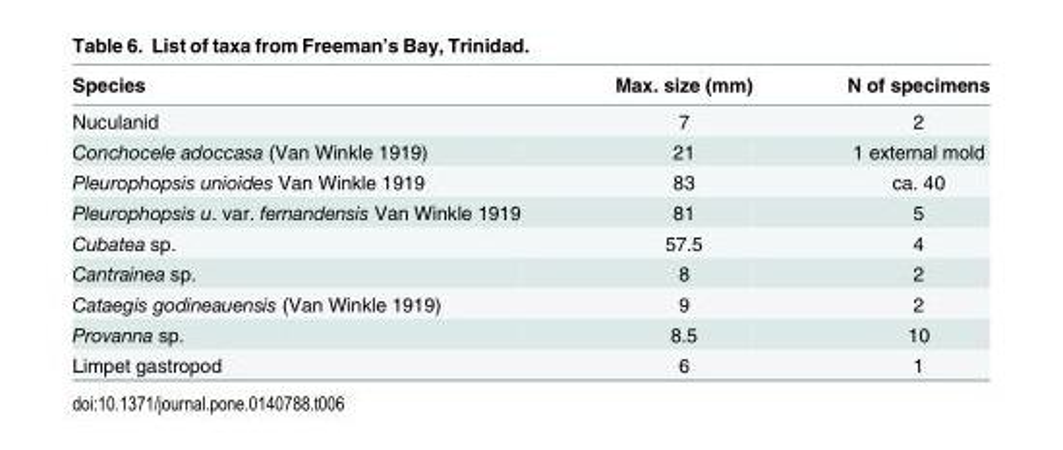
<table><thead><tr><td>Species</td><td>Max. size (mm)</td><td>N of specimens</td></tr></thead><tbody><tr><td>Nuculanid</td><td>7</td><td>2</td></tr><tr><td>Conchocele adoccasa (Van Winkle 1919)</td><td>21</td><td>1 external mold</td></tr><tr><td>Pleurophopsis unioides Van Winkle 1919</td><td>83</td><td>ca. 40</td></tr><tr><td>Pleurophopsis u. var. fernandensis Van Winkle 1919</td><td>81</td><td>5</td></tr><tr><td>Cubatea sp.</td><td>57.5</td><td>4</td></tr><tr><td>Cantrainea sp.</td><td>8</td><td>2</td></tr><tr><td>Cataegis godineauensis (Van Winkle 1919)</td><td>9</td><td>2</td></tr><tr><td>Provanna sp.</td><td>8.5</td><td>10</td></tr><tr><td>Limpet gastropod</td><td>6</td><td>1</td></tr></tbody></table>